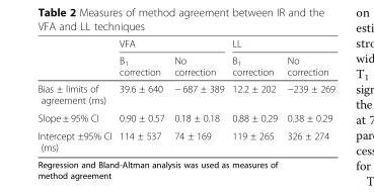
<table><thead><tr><td rowspan="2"></td><td colspan="2">VFA</td><td colspan="2">LL</td></tr><tr><td>B<sub>1</sub> correction</td><td>No correction</td><td>B<sub>1</sub> correction</td><td>No correction</td></tr></thead><tbody><tr><td>Bias ± limits of agreement (ms)</td><td>39.6 ± 640</td><td>− 687 ± 389</td><td>12.2 ± 202</td><td>−239 ± 269</td></tr><tr><td>Slope ± 95% CI</td><td>0.90 ± 0.57</td><td>0.18 ± 0.18</td><td>0.88 ± 0.29</td><td>0.38 ± 0.29</td></tr><tr><td>Intercept ±95% CI (ms)</td><td>114 ± 537</td><td>74 ± 169</td><td>119 ± 265</td><td>326 ± 274</td></tr></tbody></table>